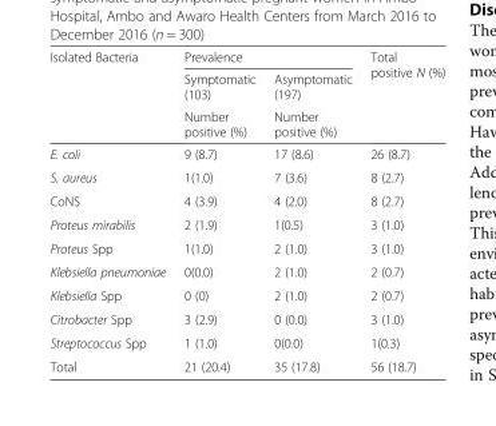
<table><thead><tr><td rowspan="3">Isolated Bacteria</td><td colspan="2">Prevalence</td><td rowspan="3">Total positive N (%)</td></tr><tr><td rowspan="2">Symptomatic (103) Number positive (%)</td><td rowspan="2">Asymptomatic (197) Number positive (%)</td></tr><tr></tr></thead><tbody><tr><td>E. coli</td><td>9 (8.7)</td><td>17 (8.6)</td><td>26 (8.7)</td></tr><tr><td>S. aureus</td><td>1(1.0)</td><td>7 (3.6)</td><td>8 (2.7)</td></tr><tr><td>CoNS</td><td>4 (3.9)</td><td>4 (2.0)</td><td>8 (2.7)</td></tr><tr><td>Proteus mirabilis</td><td>2 (1.9)</td><td>1(0.5)</td><td>3 (1.0)</td></tr><tr><td>Proteus Spp</td><td>1(1.0)</td><td>2 (1.0)</td><td>3 (1.0)</td></tr><tr><td>Klebsiella pneumoniae</td><td>0(0.0)</td><td>2 (1.0)</td><td>2 (0.7)</td></tr><tr><td>Klebsiella Spp</td><td>0 (0)</td><td>2 (1.0)</td><td>2 (0.7)</td></tr><tr><td>Citrobacter Spp</td><td>3 (2.9)</td><td>0 (0.0)</td><td>3 (1.0)</td></tr><tr><td>Streptococcus Spp</td><td>1 (1.0)</td><td>0(0.0)</td><td>1(0.3)</td></tr><tr><td>Total</td><td>21 (20.4)</td><td>35 (17.8)</td><td>56 (18.7)</td></tr></tbody></table>